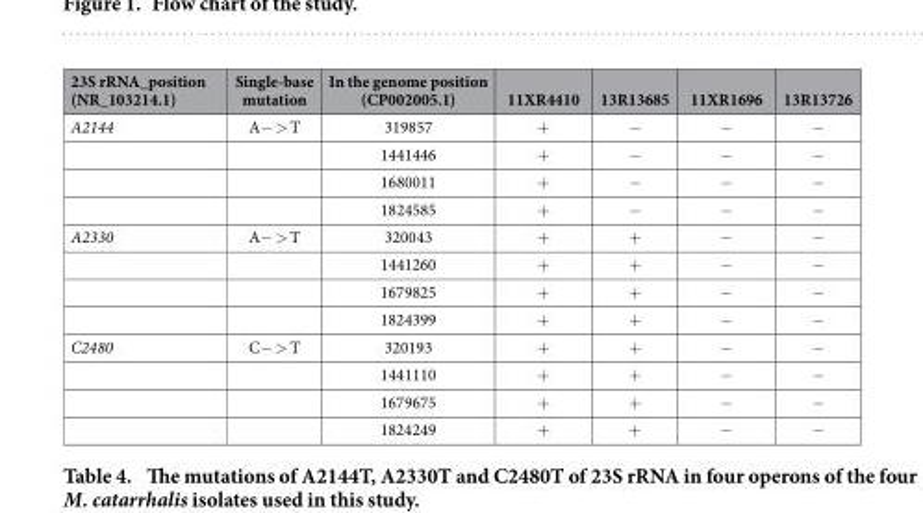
<table><thead><tr><td>23S rRNA_position (NR_103214.1)</td><td>Single-base mutation</td><td>In the genome position (CP002005.1)</td><td>11XR4410</td><td>13R13685</td><td>11XR1696</td><td>13R13726</td></tr></thead><tbody><tr><td rowspan="4">A2144</td><td>A− &gt; T</td><td>319857</td><td>+</td><td>−</td><td>−</td><td>−</td></tr><tr><td></td><td>1441446</td><td>+</td><td>−</td><td>−</td><td>−</td></tr><tr><td></td><td>1680011</td><td>+</td><td>−</td><td>−</td><td>−</td></tr><tr><td></td><td>1824585</td><td>+</td><td>−</td><td>−</td><td>−</td></tr><tr><td rowspan="4">A2330</td><td>A− &gt; T</td><td>320043</td><td>+</td><td>+</td><td>−</td><td>−</td></tr><tr><td></td><td>1441260</td><td>+</td><td>+</td><td>−</td><td>−</td></tr><tr><td></td><td>1679825</td><td>+</td><td>+</td><td>−</td><td>−</td></tr><tr><td></td><td>1824399</td><td>+</td><td>+</td><td>−</td><td>−</td></tr><tr><td rowspan="4">C2480</td><td>C− &gt; T</td><td>320193</td><td>+</td><td>+</td><td>−</td><td>−</td></tr><tr><td></td><td>1441110</td><td>+</td><td>+</td><td>−</td><td>−</td></tr><tr><td></td><td>1679675</td><td>+</td><td>+</td><td>−</td><td>−</td></tr><tr><td></td><td>1824249</td><td>+</td><td>+</td><td>−</td><td>−</td></tr></tbody></table>